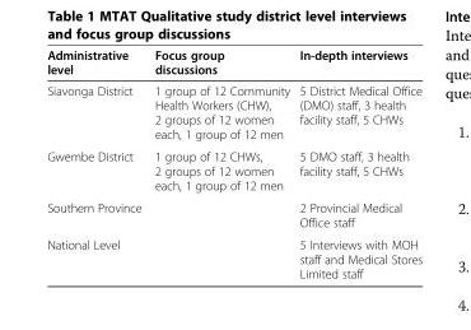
<table><thead><tr><td>Administrative level</td><td>Focus group discussions</td><td>In-depth interviews</td></tr></thead><tbody><tr><td>Siavonga District</td><td>1 group of 12 Community Health Workers (CHW), 2 groups of 12 women each, 1 group of 12 men</td><td>5 District Medical Office (DMO) staff, 3 health facility staff, 5 CHWs</td></tr><tr><td>Gwembe District</td><td>1 group of 12 CHWs, 2 groups of 12 women each, 1 group of 12 men</td><td>5 DMO staff, 3 health facility staff, 5 CHWs</td></tr><tr><td>Southern Province</td><td></td><td>2 Provincial Medical Office staff</td></tr><tr><td>National Level</td><td></td><td>5 Interviews with MOH staff and Medical Stores Limited staff</td></tr></tbody></table>